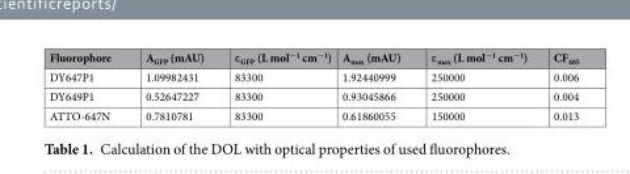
<table><thead><tr><td>Fluorophore</td><td>A<sub>GFP</sub> (mAU)</td><td>ε<sub>GFP</sub> (L mol<sup>−1</sup> cm<sup>−1</sup>)</td><td>A<sub>max</sub> (mAU)</td><td>ε<sub>max</sub> (L mol<sup>−1</sup> cm<sup>−1</sup>)</td><td>CF<sub>485</sub></td></tr></thead><tbody><tr><td>DY647P1</td><td>1.09982431</td><td>83300</td><td>1.92440999</td><td>250000</td><td>0.006</td></tr><tr><td>DY649P1</td><td>0.52647227</td><td>83300</td><td>0.93045866</td><td>250000</td><td>0.004</td></tr><tr><td>ATTO-647N</td><td>0.7810781</td><td>83300</td><td>0.61860055</td><td>150000</td><td>0.013</td></tr></tbody></table>